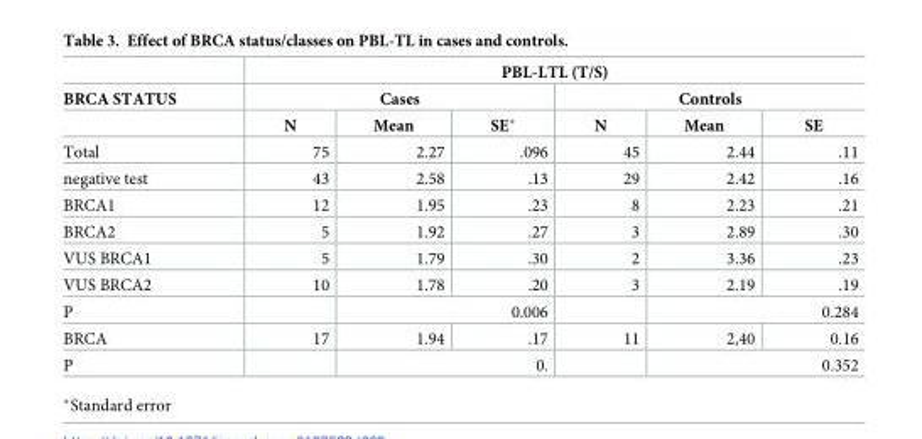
<table><thead><tr><td rowspan="3">BRCA STATUS</td><td colspan="6">PBL-LTL (T/S)</td></tr><tr><td colspan="3">Cases</td><td colspan="3">Controls</td></tr><tr><td>N</td><td>Mean</td><td>SE*</td><td>N</td><td>Mean</td><td>SE</td></tr></thead><tbody><tr><td>Total</td><td>75</td><td>2.27</td><td>.096</td><td>45</td><td>2.44</td><td>.11</td></tr><tr><td>negative test</td><td>43</td><td>2.58</td><td>.13</td><td>29</td><td>2.42</td><td>.16</td></tr><tr><td>BRCA1</td><td>12</td><td>1.95</td><td>.23</td><td>8</td><td>2.23</td><td>.21</td></tr><tr><td>BRCA2</td><td>5</td><td>1.92</td><td>.27</td><td>3</td><td>2.89</td><td>.30</td></tr><tr><td>VUS BRCA1</td><td>5</td><td>1.79</td><td>.30</td><td>2</td><td>3.36</td><td>.23</td></tr><tr><td>VUS BRCA2</td><td>10</td><td>1.78</td><td>.20</td><td>3</td><td>2.19</td><td>.19</td></tr><tr><td>P</td><td></td><td colspan="2">0.006</td><td></td><td colspan="2">0.284</td></tr><tr><td>BRCA</td><td>17</td><td>1.94</td><td>.17</td><td>11</td><td>2,40</td><td>0.16</td></tr><tr><td>P</td><td></td><td colspan="2">0.</td><td></td><td colspan="2">0.352</td></tr></tbody></table>